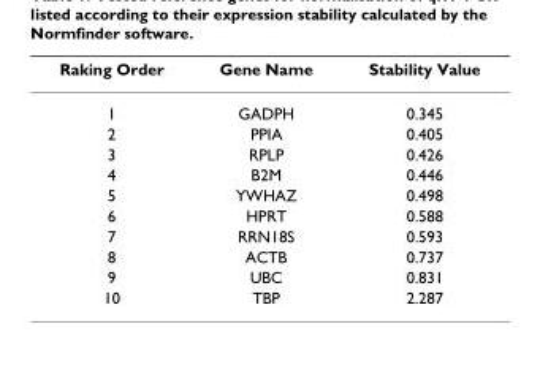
<table><thead><tr><td>Raking Order</td><td>Gene Name</td><td>Stability Value</td></tr></thead><tbody><tr><td>1</td><td>GADPH</td><td>0.345</td></tr><tr><td>2</td><td>PPIA</td><td>0.405</td></tr><tr><td>3</td><td>RPLP</td><td>0.426</td></tr><tr><td>4</td><td>B2M</td><td>0.446</td></tr><tr><td>5</td><td>YWHAZ</td><td>0.498</td></tr><tr><td>6</td><td>HPRT</td><td>0.588</td></tr><tr><td>7</td><td>RRN18S</td><td>0.593</td></tr><tr><td>8</td><td>ACTB</td><td>0.737</td></tr><tr><td>9</td><td>UBC</td><td>0.831</td></tr><tr><td>10</td><td>TBP</td><td>2.287</td></tr></tbody></table>